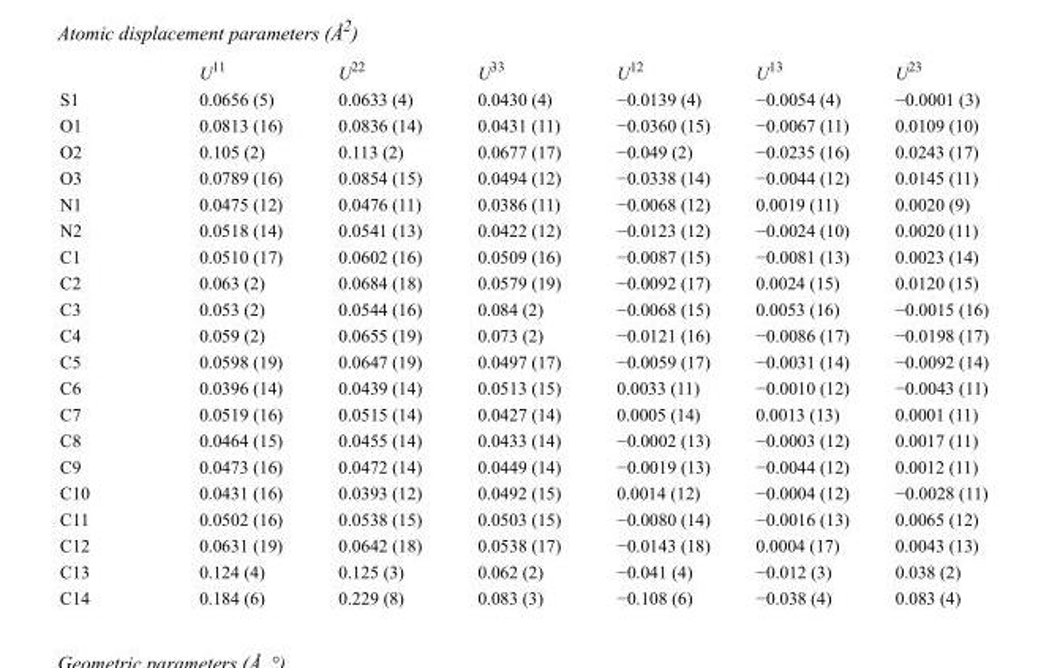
<table><thead><tr><td></td><td>U<sup>11</sup></td><td>U<sup>22</sup></td><td>U<sup>33</sup></td><td>U<sup>12</sup></td><td>U<sup>13</sup></td><td>U<sup>23</sup></td></tr></thead><tbody><tr><td>S1</td><td>0.0656 (5)</td><td>0.0633 (4)</td><td>0.0430 (4)</td><td>−0.0139 (4)</td><td>−0.0054 (4)</td><td>−0.0001 (3)</td></tr><tr><td>O1</td><td>0.0813 (16)</td><td>0.0836 (14)</td><td>0.0431 (11)</td><td>−0.0360 (15)</td><td>−0.0067 (11)</td><td>0.0109 (10)</td></tr><tr><td>O2</td><td>0.105 (2)</td><td>0.113 (2)</td><td>0.0677 (17)</td><td>−0.049 (2)</td><td>−0.0235 (16)</td><td>0.0243 (17)</td></tr><tr><td>O3</td><td>0.0789 (16)</td><td>0.0854 (15)</td><td>0.0494 (12)</td><td>−0.0338 (14)</td><td>−0.0044 (12)</td><td>0.0145 (11)</td></tr><tr><td>N1</td><td>0.0475 (12)</td><td>0.0476 (11)</td><td>0.0386 (11)</td><td>−0.0068 (12)</td><td>0.0019 (11)</td><td>0.0020 (9)</td></tr><tr><td>N2</td><td>0.0518 (14)</td><td>0.0541 (13)</td><td>0.0422 (12)</td><td>−0.0123 (12)</td><td>−0.0024 (10)</td><td>0.0020 (11)</td></tr><tr><td>C1</td><td>0.0510 (17)</td><td>0.0602 (16)</td><td>0.0509 (16)</td><td>−0.0087 (15)</td><td>−0.0081 (13)</td><td>0.0023 (14)</td></tr><tr><td>C2</td><td>0.063 (2)</td><td>0.0684 (18)</td><td>0.0579 (19)</td><td>−0.0092 (17)</td><td>0.0024 (15)</td><td>0.0120 (15)</td></tr><tr><td>C3</td><td>0.053 (2)</td><td>0.0544 (16)</td><td>0.084 (2)</td><td>−0.0068 (15)</td><td>0.0053 (16)</td><td>−0.0015 (16)</td></tr><tr><td>C4</td><td>0.059 (2)</td><td>0.0655 (19)</td><td>0.073 (2)</td><td>−0.0121 (16)</td><td>−0.0086 (17)</td><td>−0.0198 (17)</td></tr><tr><td>C5</td><td>0.0598 (19)</td><td>0.0647 (19)</td><td>0.0497 (17)</td><td>−0.0059 (17)</td><td>−0.0031 (14)</td><td>−0.0092 (14)</td></tr><tr><td>C6</td><td>0.0396 (14)</td><td>0.0439 (14)</td><td>0.0513 (15)</td><td>0.0033 (11)</td><td>−0.0010 (12)</td><td>−0.0043 (11)</td></tr><tr><td>C7</td><td>0.0519 (16)</td><td>0.0515 (14)</td><td>0.0427 (14)</td><td>0.0005 (14)</td><td>0.0013 (13)</td><td>0.0001 (11)</td></tr><tr><td>C8</td><td>0.0464 (15)</td><td>0.0455 (14)</td><td>0.0433 (14)</td><td>−0.0002 (13)</td><td>−0.0003 (12)</td><td>0.0017 (11)</td></tr><tr><td>C9</td><td>0.0473 (16)</td><td>0.0472 (14)</td><td>0.0449 (14)</td><td>−0.0019 (13)</td><td>−0.0044 (12)</td><td>0.0012 (11)</td></tr><tr><td>C10</td><td>0.0431 (16)</td><td>0.0393 (12)</td><td>0.0492 (15)</td><td>0.0014 (12)</td><td>−0.0004 (12)</td><td>−0.0028 (11)</td></tr><tr><td>C11</td><td>0.0502 (16)</td><td>0.0538 (15)</td><td>0.0503 (15)</td><td>−0.0080 (14)</td><td>−0.0016 (13)</td><td>0.0065 (12)</td></tr><tr><td>C12</td><td>0.0631 (19)</td><td>0.0642 (18)</td><td>0.0538 (17)</td><td>−0.0143 (18)</td><td>0.0004 (17)</td><td>0.0043 (13)</td></tr><tr><td>C13</td><td>0.124 (4)</td><td>0.125 (3)</td><td>0.062 (2)</td><td>−0.041 (4)</td><td>−0.012 (3)</td><td>0.038 (2)</td></tr><tr><td>C14</td><td>0.184 (6)</td><td>0.229 (8)</td><td>0.083 (3)</td><td>−0.108 (6)</td><td>−0.038 (4)</td><td>0.083 (4)</td></tr></tbody></table>